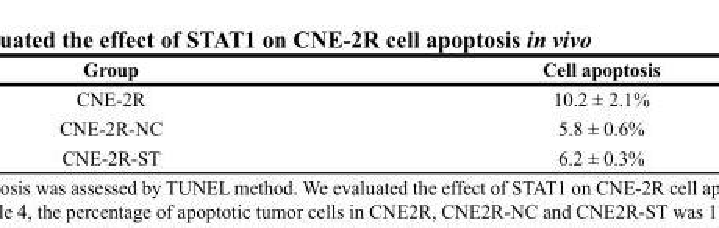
<table><thead><tr><td>Group</td><td>Cell apoptosis</td></tr></thead><tbody><tr><td>CNE-2R</td><td>10.2 ± 2.1%</td></tr><tr><td>CNE-2R-NC</td><td>5.8 ± 0.6%</td></tr><tr><td>CNE-2R-ST</td><td>6.2 ± 0.3%</td></tr></tbody></table>